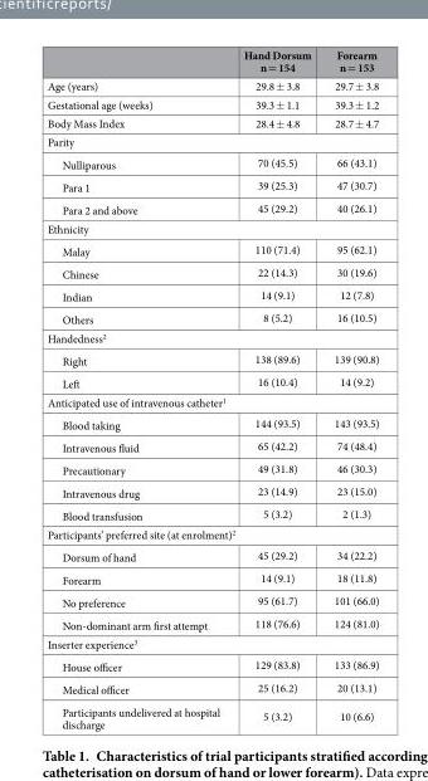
<table><thead><tr><td></td><td>Hand Dorsum n = 154</td><td>Forearm n = 153</td></tr></thead><tbody><tr><td>Age (years)</td><td>29.8 ± 3.8</td><td>29.7 ± 3.8</td></tr><tr><td>Gestational age (weeks)</td><td>39.3 ± 1.1</td><td>39.3 ± 1.2</td></tr><tr><td>Body Mass Index</td><td>28.4 ± 4.8</td><td>28.7 ± 4.7</td></tr><tr><td colspan="3">Parity</td></tr><tr><td>Nulliparous</td><td>70 (45.5)</td><td>66 (43.1)</td></tr><tr><td>Para 1</td><td>39 (25.3)</td><td>47 (30.7)</td></tr><tr><td>Para 2 and above</td><td>45 (29.2)</td><td>40 (26.1)</td></tr><tr><td colspan="3">Ethnicity</td></tr><tr><td>Malay</td><td>110 (71.4)</td><td>95 (62.1)</td></tr><tr><td>Chinese</td><td>22 (14.3)</td><td>30 (19.6)</td></tr><tr><td>Indian</td><td>14 (9.1)</td><td>12 (7.8)</td></tr><tr><td>Others</td><td>8 (5.2)</td><td>16 (10.5)</td></tr><tr><td colspan="3">Handedness<sup>2</sup></td></tr><tr><td>Right</td><td>138 (89.6)</td><td>139 (90.8)</td></tr><tr><td>Left</td><td>16 (10.4)</td><td>14 (9.2)</td></tr><tr><td colspan="3">Anticipated use of intravenous catheter<sup>1</sup></td></tr><tr><td>Blood taking</td><td>144 (93.5)</td><td>143 (93.5)</td></tr><tr><td>Intravenous fluid</td><td>65 (42.2)</td><td>74 (48.4)</td></tr><tr><td>Precautionary</td><td>49 (31.8)</td><td>46 (30.3)</td></tr><tr><td>Intravenous drug</td><td>23 (14.9)</td><td>23 (15.0)</td></tr><tr><td>Blood transfusion</td><td>5 (3.2)</td><td>2 (1.3)</td></tr><tr><td colspan="3">Participants’ preferred site (at enrolment)<sup>2</sup></td></tr><tr><td>Dorsum of hand</td><td>45 (29.2)</td><td>34 (22.2)</td></tr><tr><td>Forearm</td><td>14 (9.1)</td><td>18 (11.8)</td></tr><tr><td>No preference</td><td>95 (61.7)</td><td>101 (66.0)</td></tr><tr><td>Non-dominant arm first attempt</td><td>118 (76.6)</td><td>124 (81.0)</td></tr><tr><td colspan="3">Inserter experience<sup>3</sup></td></tr><tr><td>House officer</td><td>129 (83.8)</td><td>133 (86.9)</td></tr><tr><td>Medical officer</td><td>25 (16.2)</td><td>20 (13.1)</td></tr><tr><td>Participants undelivered at hospital discharge</td><td>5 (3.2)</td><td>10 (6.6)</td></tr></tbody></table>